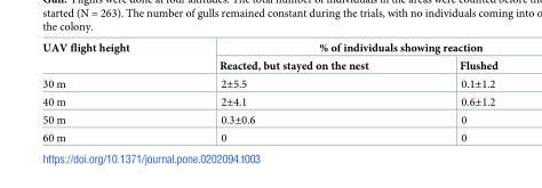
<table><thead><tr><td rowspan="2">UAV flight height</td><td colspan="2">% of individuals showing reaction</td></tr><tr><td>Reacted, but stayed on the nest</td><td>Flushed</td></tr></thead><tbody><tr><td>30 m</td><td>2±5.5</td><td>0.1±1.2</td></tr><tr><td>40 m</td><td>2±4.1</td><td>0.6±1.2</td></tr><tr><td>50 m</td><td>0.3±0.6</td><td>0</td></tr><tr><td>60 m</td><td>0</td><td>0</td></tr></tbody></table>